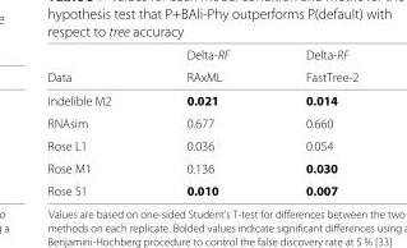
<table><thead><tr><td rowspan="2">Data</td><td rowspan="2">Delta-RF RAxML</td><td rowspan="2">Delta-RF FastTree-2</td></tr><tr></tr></thead><tbody><tr><td>Indelible M2</td><td>0.021</td><td>0.014</td></tr><tr><td>RNAsim</td><td>0.677</td><td>0.660</td></tr><tr><td>Rose L1</td><td>0.036</td><td>0.054</td></tr><tr><td>Rose M1</td><td>0.136</td><td>0.030</td></tr><tr><td>Rose S1</td><td>0.010</td><td>0.007</td></tr></tbody></table>